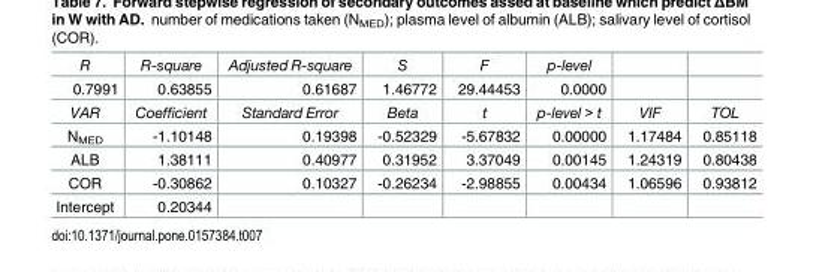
<table><tbody><tr><td>R</td><td>R-square</td><td>Adjusted R-square</td><td>S</td><td>F</td><td>p-level</td><td></td><td></td></tr><tr><td>0.7991</td><td>0.63855</td><td>0.61687</td><td>1.46772</td><td>29.44453</td><td>0.0000</td><td></td><td></td></tr><tr><td>VAR</td><td>Coefficient</td><td>Standard Error</td><td>Beta</td><td>t</td><td>p-level &gt; t</td><td>VIF</td><td>TOL</td></tr><tr><td>N<sub>MED</sub></td><td>-1.10148</td><td>0.19398</td><td>-0.52329</td><td>-5.67832</td><td>0.00000</td><td>1.17484</td><td>0.85118</td></tr><tr><td>ALB</td><td>1.38111</td><td>0.40977</td><td>0.31952</td><td>3.37049</td><td>0.00145</td><td>1.24319</td><td>0.80438</td></tr><tr><td>COR</td><td>-0.30862</td><td>0.10327</td><td>-0.26234</td><td>-2.98855</td><td>0.00434</td><td>1.06596</td><td>0.93812</td></tr><tr><td>Intercept</td><td>0.20344</td><td></td><td></td><td></td><td></td><td></td><td></td></tr></tbody></table>